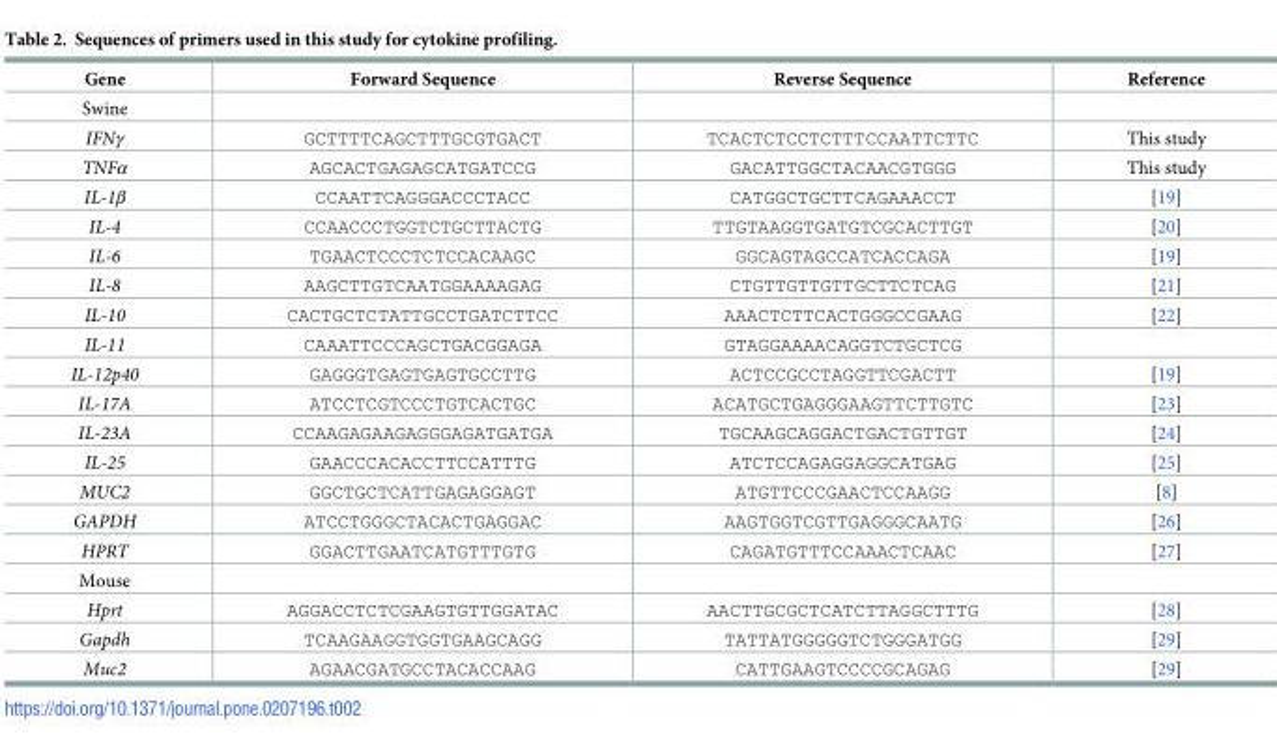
<table><thead><tr><td>Gene</td><td>Forward Sequence</td><td>Reverse Sequence</td><td>Reference</td></tr></thead><tbody><tr><td colspan="4">Swine</td></tr><tr><td>IFNγ</td><td>GCTTTTCAGCTTTGCGTGACT</td><td>TCACTCTCCTCTTTCCAATTCTTC</td><td>This study</td></tr><tr><td>TNFα</td><td>AGCACTGAGAGCATGATCCG</td><td>GACATTGGCTACAACGTGGG</td><td>This study</td></tr><tr><td>IL-1β</td><td>CCAATTCAGGGACCCTACC</td><td>CATGGCTGCTTCAGAAACCT</td><td>[19]</td></tr><tr><td>IL-4</td><td>CCAACCCTGGTCTGCTTACTG</td><td>TTGTAAGGTGATGTCGCACTTGT</td><td>[20]</td></tr><tr><td>IL-6</td><td>TGAACTCCCTCTCCACAAGC</td><td>GGCAGTAGCCATCACCAGA</td><td>[19]</td></tr><tr><td>IL-8</td><td>AAGCTTGTCAATGGAAAAGAG</td><td>CTGTTGTTGTTGCTTCTCAG</td><td>[21]</td></tr><tr><td>IL-10</td><td>CACTGCTCTATTGCCTGATCTTCC</td><td>AAACTCTTCACTGGGCCGAAG</td><td>[22]</td></tr><tr><td>IL-11</td><td>CAAATTCCCAGCTGACGGAGA</td><td>GTAGGAAAACAGGTCTGCTCG</td><td></td></tr><tr><td>IL-12p40</td><td>GAGGGTGAGTGAGTGCCTTG</td><td>ACTCCGCCTAGGTTCGACTT</td><td>[19]</td></tr><tr><td>IL-17A</td><td>ATCCTCGTCCCTGTCACTGC</td><td>ACATGCTGAGGGAAGTTCTTGTC</td><td>[23]</td></tr><tr><td>IL-23A</td><td>CCAAGAGAAGAGGGAGATGATGA</td><td>TGCAAGCAGGACTGACTGTTGT</td><td>[24]</td></tr><tr><td>IL-25</td><td>GAACCCACACCTTCCATTTG</td><td>ATCTCCAGAGGAGGCATGAG</td><td>[25]</td></tr><tr><td>MUC2</td><td>GGCTGCTCATTGAGAGGAGT</td><td>ATGTTCCCGAACTCCAAGG</td><td>[8]</td></tr><tr><td>GAPDH</td><td>ATCCTGGGCTACACTGAGGAC</td><td>AAGTGGTCGTTGAGGGCAATG</td><td>[26]</td></tr><tr><td>HPRT</td><td>GGACTTGAATCATGTTTGTG</td><td>CAGATGTTTCCAAACTCAAC</td><td>[27]</td></tr><tr><td colspan="4">Mouse</td></tr><tr><td>Hprt</td><td>AGGACCTCTCGAAGTGTTGGATAC</td><td>AACTTGCGCTCATCTTAGGCTTTG</td><td>[28]</td></tr><tr><td>Gapdh</td><td>TCAAGAAGGTGGTGAAGCAGG</td><td>TATTATGGGGGTCTGGGATGG</td><td>[29]</td></tr><tr><td>Muc2</td><td>AGAACGATGCCTACACCAAG</td><td>CATTGAAGTCCCCGCAGAG</td><td>[29]</td></tr></tbody></table>